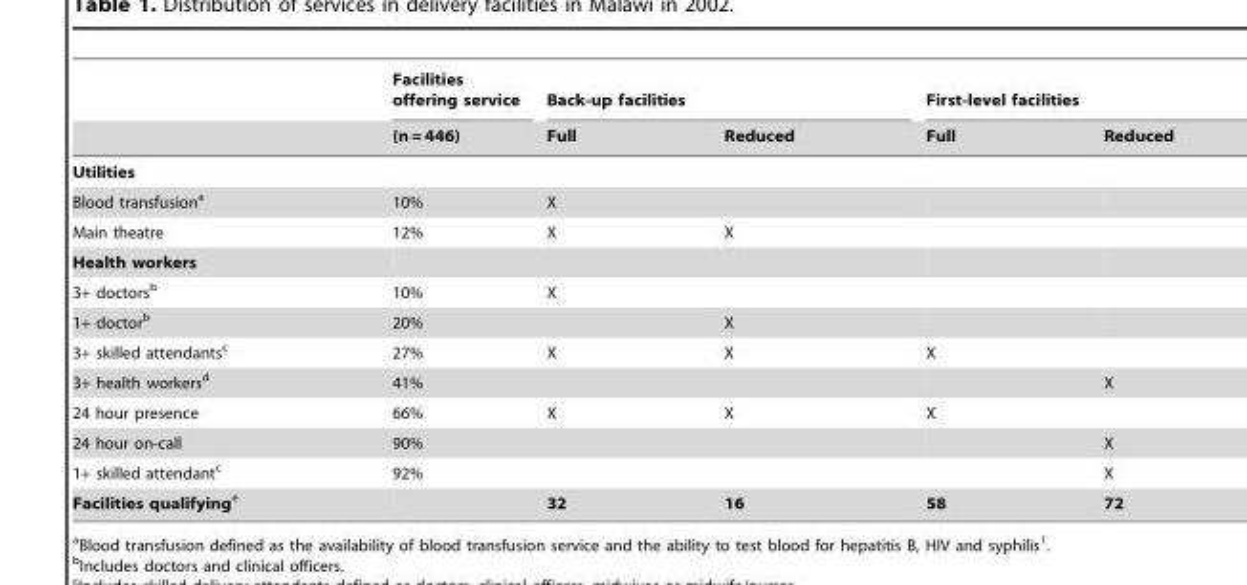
<table><thead><tr><td rowspan="2"></td><td rowspan="2">Facilities offering service (n = 446)</td><td colspan="2">Back-up facilities</td><td colspan="2">First-level facilities</td></tr><tr><td>Full</td><td>Reduced</td><td>Full</td><td>Reduced</td></tr></thead><tbody><tr><td colspan="6">Utilities</td></tr><tr><td>Blood transfusion<sup>a</sup></td><td>10%</td><td>X</td><td></td><td></td><td></td></tr><tr><td>Main theatre</td><td>12%</td><td>X</td><td>X</td><td></td><td></td></tr><tr><td colspan="6">Health workers</td></tr><tr><td>3+ doctors<sup>b</sup></td><td>10%</td><td>X</td><td></td><td></td><td></td></tr><tr><td>1+ doctor<sup>b</sup></td><td>20%</td><td></td><td>X</td><td></td><td></td></tr><tr><td>3+ skilled attendants<sup>c</sup></td><td>27%</td><td>X</td><td>X</td><td>X</td><td></td></tr><tr><td>3+ health workers<sup>d</sup></td><td>41%</td><td></td><td></td><td></td><td>X</td></tr><tr><td>24 hour presence</td><td>66%</td><td>X</td><td>X</td><td>X</td><td></td></tr><tr><td>24 hour on-call</td><td>90%</td><td></td><td></td><td></td><td>X</td></tr><tr><td>1+ skilled attendant<sup>c</sup></td><td>92%</td><td></td><td></td><td></td><td>X</td></tr><tr><td>Facilities qualifyinge</td><td></td><td>32</td><td>16</td><td>58</td><td>72</td></tr></tbody></table>